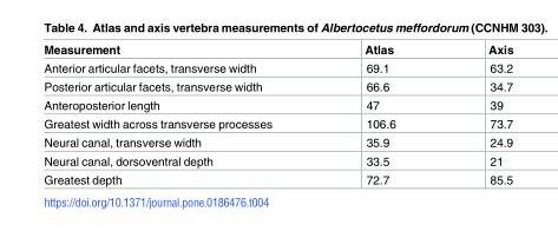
<table><thead><tr><td>Measurement</td><td>Atlas</td><td>Axis</td></tr></thead><tbody><tr><td>Anterior articular facets, transverse width</td><td>69.1</td><td>63.2</td></tr><tr><td>Posterior articular facets, transverse width</td><td>66.6</td><td>34.7</td></tr><tr><td>Anteroposterior length</td><td>47</td><td>39</td></tr><tr><td>Greatest width across transverse processes</td><td>106.6</td><td>73.7</td></tr><tr><td>Neural canal, transverse width</td><td>35.9</td><td>24.9</td></tr><tr><td>Neural canal, dorsoventral depth</td><td>33.5</td><td>21</td></tr><tr><td>Greatest depth</td><td>72.7</td><td>85.5</td></tr></tbody></table>